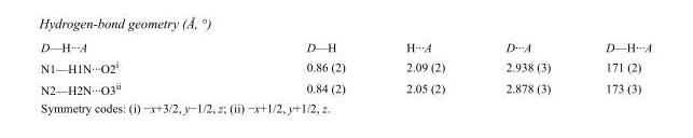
<table><tbody><tr><td>D—H···A</td><td>D—H</td><td>H···A</td><td>D···A</td><td>D—H···A</td></tr><tr><td>N1—H1N···O2<sup>i</sup></td><td>0.86 (2)</td><td>2.09 (2)</td><td>2.938 (3)</td><td>171 (2)</td></tr><tr><td>N2—H2N···O3<sup>ii</sup></td><td>0.84 (2)</td><td>2.05 (2)</td><td>2.878 (3)</td><td>173 (3)</td></tr></tbody></table>